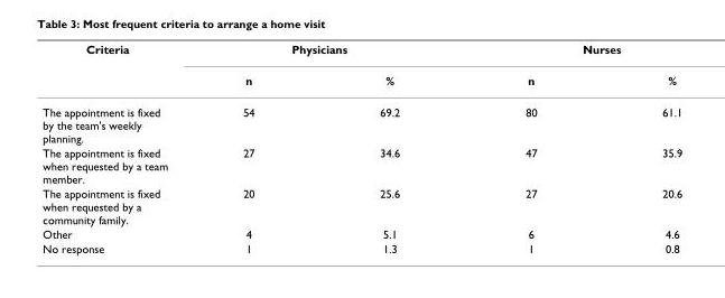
<table><thead><tr><td rowspan="2">Criteria</td><td colspan="2">Physicians</td><td colspan="2">Nurses</td></tr><tr><td>n</td><td>%</td><td>n</td><td>%</td></tr></thead><tbody><tr><td>The appointment is fixed by the team&#x27;s weekly planning.</td><td>54</td><td>69.2</td><td>80</td><td>61.1</td></tr><tr><td>The appointment is fixed when requested by a team member.</td><td>27</td><td>34.6</td><td>47</td><td>35.9</td></tr><tr><td>The appointment is fixed when requested by a community family.</td><td>20</td><td>25.6</td><td>27</td><td>20.6</td></tr><tr><td>Other</td><td>4</td><td>5.1</td><td>6</td><td>4.6</td></tr><tr><td>No response</td><td>1</td><td>1.3</td><td>1</td><td>0.8</td></tr></tbody></table>